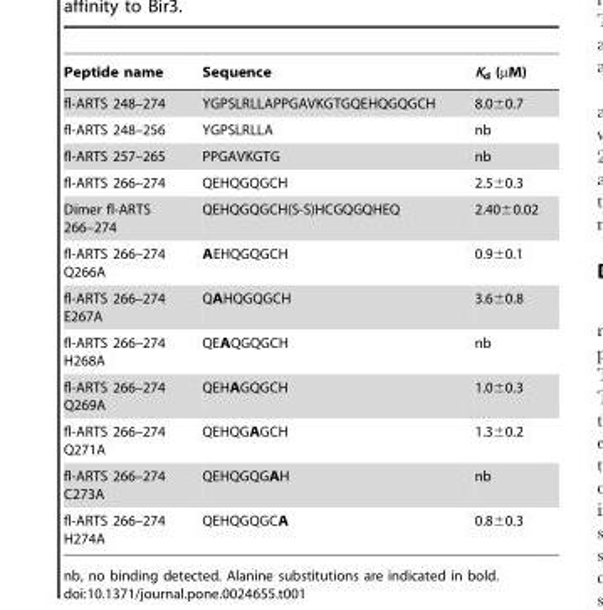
<table><thead><tr><td>Peptide name</td><td>Sequence</td><td>K<sub>d</sub> (µM)</td></tr></thead><tbody><tr><td>fl-ARTS 248–274</td><td>YGPSLRLLAPPGAVKGTGQEHQGQGCH</td><td>8.0±0.7</td></tr><tr><td>fl-ARTS 248–256</td><td>YGPSLRLLA</td><td>nb</td></tr><tr><td>fl-ARTS 257–265</td><td>PPGAVKGTG</td><td>nb</td></tr><tr><td>fl-ARTS 266–274</td><td>QEHQGQGCH</td><td>2.5±0.3</td></tr><tr><td>Dimer fl-ARTS 266–274</td><td>QEHQGQGCH(S-S)HCGQGQHEQ</td><td>2.40±0.02</td></tr><tr><td>fl-ARTS 266–274 Q266A</td><td>AEHQGQGCH</td><td>0.9±0.1</td></tr><tr><td>fl-ARTS 266–274 E267A</td><td>QAHQGQGCH</td><td>3.6±0.8</td></tr><tr><td>fl-ARTS 266–274 H268A</td><td>QEAQGQGCH</td><td>nb</td></tr><tr><td>fl-ARTS 266–274 Q269A</td><td>QEHAGQGCH</td><td>1.0±0.3</td></tr><tr><td>fl-ARTS 266–274 Q271A</td><td>QEHQGAGCH</td><td>1.3±0.2</td></tr><tr><td>fl-ARTS 266–274 C273A</td><td>QEHQGQGAH</td><td>nb</td></tr><tr><td>fl-ARTS 266–274 H274A</td><td>QEHQGQGCA</td><td>0.8±0.3</td></tr></tbody></table>